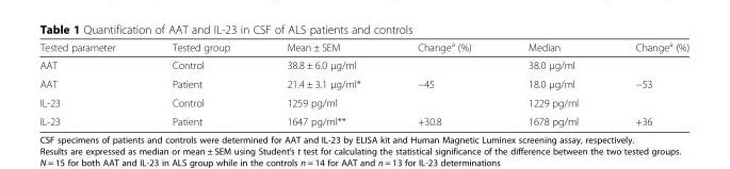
<table><thead><tr><td>Tested parameter</td><td>Tested group</td><td>Mean ± SEM</td><td>Change<sup>a</sup> (%)</td><td>Median</td><td>Change<sup>a</sup> (%)</td></tr></thead><tbody><tr><td>AAT</td><td>Control</td><td>38.8 ± 6.0 μg/ml</td><td></td><td>38.0 μg/ml</td><td></td></tr><tr><td>AAT</td><td>Patient</td><td>21.4 ± 3.1 μg/ml*</td><td>−45</td><td>18.0 μg/ml</td><td>−53</td></tr><tr><td>IL-23</td><td>Control</td><td>1259 pg/ml</td><td></td><td>1229 pg/ml</td><td></td></tr><tr><td>IL-23</td><td>Patient</td><td>1647 pg/ml**</td><td>+30.8</td><td>1678 pg/ml</td><td>+36</td></tr></tbody></table>